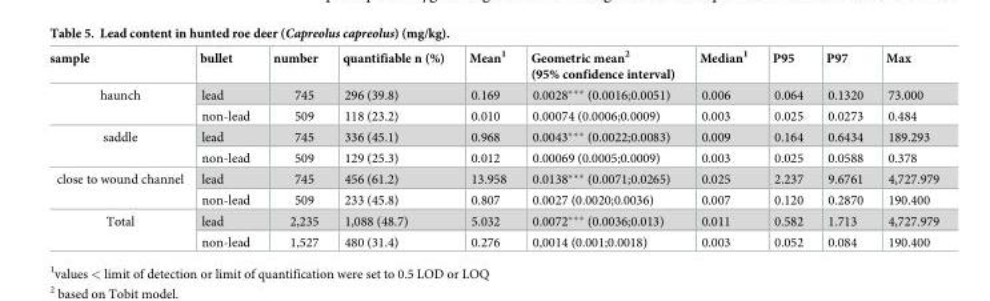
<table><thead><tr><td>sample</td><td>bullet</td><td>number</td><td>quantifiable n (%)</td><td>Mean<sup>1</sup></td><td>Geometric mean<sup>2</sup> (95% confidence interval)</td><td>Median<sup>1</sup></td><td>P95</td><td>P97</td><td>Max</td></tr></thead><tbody><tr><td rowspan="2">haunch</td><td>lead</td><td>745</td><td>296 (39.8)</td><td>0.169</td><td>0.0028*** (0.0016;0.0051)</td><td>0.006</td><td>0.064</td><td>0.1320</td><td>73.000</td></tr><tr><td>non-lead</td><td>509</td><td>118 (23.2)</td><td>0.010</td><td>0.00074 (0.0006;0.0009)</td><td>0.003</td><td>0.025</td><td>0.0273</td><td>0.484</td></tr><tr><td rowspan="2">saddle</td><td>lead</td><td>745</td><td>336 (45.1)</td><td>0.968</td><td>0.0043*** (0.0022;0.0083)</td><td>0.009</td><td>0.164</td><td>0.6434</td><td>189.293</td></tr><tr><td>non-lead</td><td>509</td><td>129 (25.3)</td><td>0.012</td><td>0.00069 (0.0005;0.0009)</td><td>0.003</td><td>0.025</td><td>0.0588</td><td>0.378</td></tr><tr><td rowspan="2">close to wound channel</td><td>lead</td><td>745</td><td>456 (61.2)</td><td>13.958</td><td>0.0138*** (0.0071;0.0265)</td><td>0.025</td><td>2.237</td><td>9.6761</td><td>4,727.979</td></tr><tr><td>non-lead</td><td>509</td><td>233 (45.8)</td><td>0.807</td><td>0.0027 (0.0020;0.0036)</td><td>0.007</td><td>0.120</td><td>0.2870</td><td>190.400</td></tr><tr><td rowspan="2">Total</td><td>lead</td><td>2,235</td><td>1,088 (48.7)</td><td>5.032</td><td>0.0072*** (0.0036;0.013)</td><td>0.011</td><td>0.582</td><td>1.713</td><td>4,727.979</td></tr><tr><td>non-lead</td><td>1,527</td><td>480 (31.4)</td><td>0.276</td><td>0,0014 (0.001;0.0018)</td><td>0.003</td><td>0.052</td><td>0.084</td><td>190.400</td></tr></tbody></table>